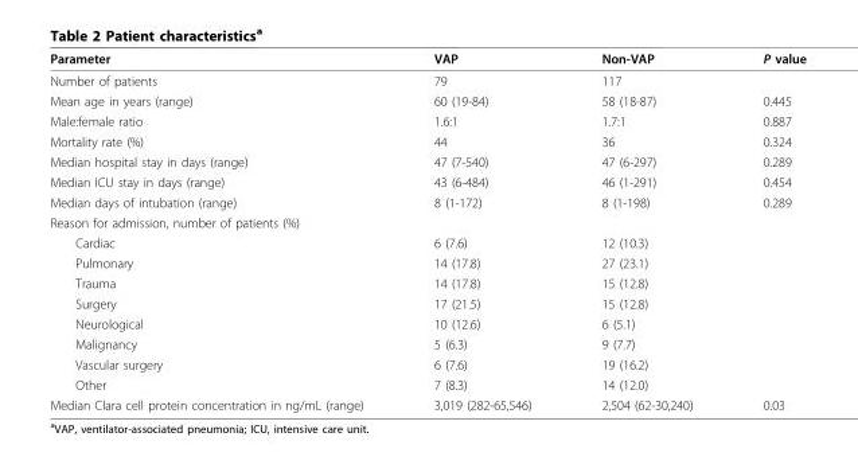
<table><thead><tr><td>Parameter</td><td>VAP</td><td>Non-VAP</td><td>P value</td></tr></thead><tbody><tr><td>Number of patients</td><td>79</td><td>117</td><td></td></tr><tr><td>Mean age in years (range)</td><td>60 (19-84)</td><td>58 (18-87)</td><td>0.445</td></tr><tr><td>Male:female ratio</td><td>1.6:1</td><td>1.7:1</td><td>0.887</td></tr><tr><td>Mortality rate (%)</td><td>44</td><td>36</td><td>0.324</td></tr><tr><td>Median hospital stay in days (range)</td><td>47 (7-540)</td><td>47 (6-297)</td><td>0.289</td></tr><tr><td>Median ICU stay in days (range)</td><td>43 (6-484)</td><td>46 (1-291)</td><td>0.454</td></tr><tr><td>Median days of intubation (range)</td><td>8 (1-172)</td><td>8 (1-198)</td><td>0.289</td></tr><tr><td colspan="4">Reason for admission, number of patients (%)</td></tr><tr><td>Cardiac</td><td>6 (7.6)</td><td>12 (10.3)</td><td></td></tr><tr><td>Pulmonary</td><td>14 (17.8)</td><td>27 (23.1)</td><td></td></tr><tr><td>Trauma</td><td>14 (17.8)</td><td>15 (12.8)</td><td></td></tr><tr><td>Surgery</td><td>17 (21.5)</td><td>15 (12.8)</td><td></td></tr><tr><td>Neurological</td><td>10 (12.6)</td><td>6 (5.1)</td><td></td></tr><tr><td>Malignancy</td><td>5 (6.3)</td><td>9 (7.7)</td><td></td></tr><tr><td>Vascular surgery</td><td>6 (7.6)</td><td>19 (16.2)</td><td></td></tr><tr><td>Other</td><td>7 (8.3)</td><td>14 (12.0)</td><td></td></tr><tr><td>Median Clara cell protein concentration in ng/mL (range)</td><td>3,019 (282-65,546)</td><td>2,504 (62-30,240)</td><td>0.03</td></tr></tbody></table>